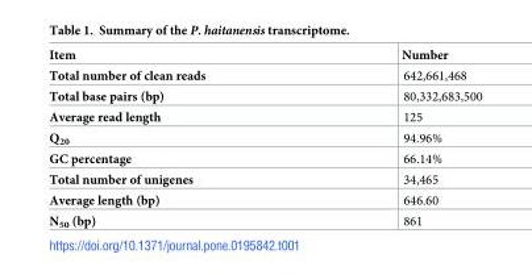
<table><thead><tr><td>Item</td><td>Number</td></tr></thead><tbody><tr><td>Total number of clean reads</td><td>642,661,468</td></tr><tr><td>Total base pairs (bp)</td><td>80,332,683,500</td></tr><tr><td>Average read length</td><td>125</td></tr><tr><td>Q<sub>20</sub></td><td>94.96%</td></tr><tr><td>GC percentage</td><td>66.14%</td></tr><tr><td>Total number of unigenes</td><td>34,465</td></tr><tr><td>Average length (bp)</td><td>646.60</td></tr><tr><td>N<sub>50</sub> (bp)</td><td>861</td></tr></tbody></table>